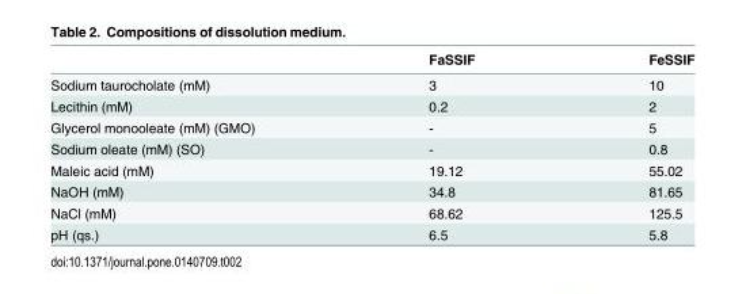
<table><thead><tr><td></td><td>FaSSIF</td><td>FeSSIF</td></tr></thead><tbody><tr><td>Sodium taurocholate (mM)</td><td>3</td><td>10</td></tr><tr><td>Lecithin (mM)</td><td>0.2</td><td>2</td></tr><tr><td>Glycerol monooleate (mM) (GMO)</td><td>-</td><td>5</td></tr><tr><td>Sodium oleate (mM) (SO)</td><td>-</td><td>0.8</td></tr><tr><td>Maleic acid (mM)</td><td>19.12</td><td>55.02</td></tr><tr><td>NaOH (mM)</td><td>34.8</td><td>81.65</td></tr><tr><td>NaCl (mM)</td><td>68.62</td><td>125.5</td></tr><tr><td>pH (qs.)</td><td>6.5</td><td>5.8</td></tr></tbody></table>